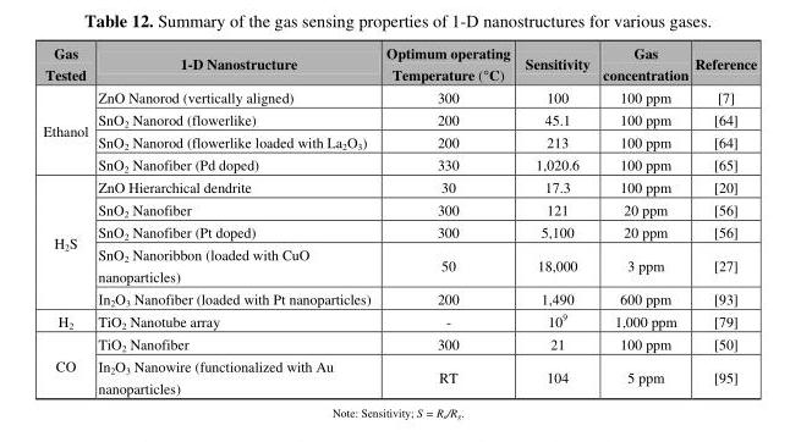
<table><thead><tr><td>Gas Tested</td><td>1-D Nanostructure</td><td>Optimum operating Temperature (°C)</td><td>Sensitivity</td><td>Gas concentration</td><td>Reference</td></tr></thead><tbody><tr><td rowspan="4">Ethanol</td><td>ZnO Nanorod (vertically aligned)</td><td>300</td><td>100</td><td>100 ppm</td><td>[7]</td></tr><tr><td>SnO2 Nanorod (flowerlike)</td><td>200</td><td>45.1</td><td>100 ppm</td><td>[64]</td></tr><tr><td>SnO2 Nanorod (flowerlike loaded with La2O3)</td><td>200</td><td>213</td><td>100 ppm</td><td>[64]</td></tr><tr><td>SnO2 Nanofiber (Pd doped)</td><td>330</td><td>1,020.6</td><td>100 ppm</td><td>[65]</td></tr><tr><td rowspan="5">H2S</td><td>ZnO Hierarchical dendrite</td><td>30</td><td>17.3</td><td>100 ppm</td><td>[20]</td></tr><tr><td>SnO2 Nanofiber</td><td>300</td><td>121</td><td>20 ppm</td><td>[56]</td></tr><tr><td>SnO2 Nanofiber (Pt doped)</td><td>300</td><td>5,100</td><td>20 ppm</td><td>[56]</td></tr><tr><td>SnO2 Nanoribbon (loaded with CuO nanoparticles)</td><td>50</td><td>18,000</td><td>3 ppm</td><td>[27]</td></tr><tr><td>In2O3 Nanofiber (loaded with Pt nanoparticles)</td><td>200</td><td>1,490</td><td>600 ppm</td><td>[93]</td></tr><tr><td>H2</td><td>TiO2 Nanotube array</td><td>-</td><td>109</td><td>1,000 ppm</td><td>[79]</td></tr><tr><td rowspan="2">CO</td><td>TiO2 Nanofiber</td><td>300</td><td>21</td><td>100 ppm</td><td>[50]</td></tr><tr><td>In2O3 Nanowire (functionalized with Au nanoparticles)</td><td>RT</td><td>104</td><td>5 ppm</td><td>[95]</td></tr></tbody></table>